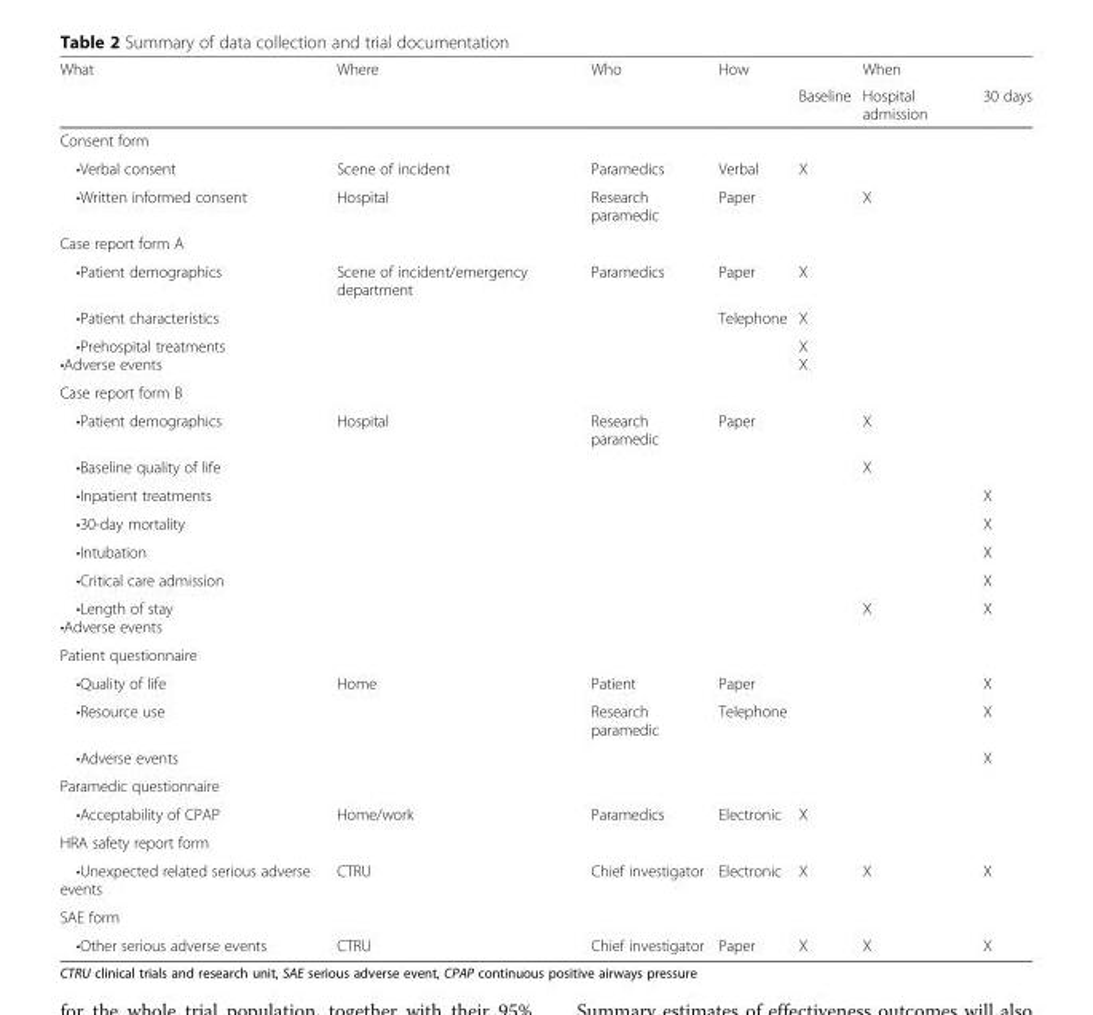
<table><thead><tr><td rowspan="2">What</td><td rowspan="2">Where</td><td rowspan="2">Who</td><td rowspan="2">How</td><td rowspan="2">Baseline</td><td rowspan="2">When Hospital admission</td><td rowspan="2">30 days</td></tr><tr></tr></thead><tbody><tr><td colspan="7">Consent form</td></tr><tr><td>•Verbal consent</td><td>Scene of incident</td><td>Paramedics</td><td>Verbal</td><td>X</td><td></td><td></td></tr><tr><td>•Written informed consent</td><td>Hospital</td><td>Research paramedic</td><td>Paper</td><td></td><td>X</td><td></td></tr><tr><td colspan="7">Case report form A</td></tr><tr><td>•Patient demographics</td><td>Scene of incident/emergency department</td><td>Paramedics</td><td>Paper</td><td>X</td><td></td><td></td></tr><tr><td>•Patient characteristics</td><td></td><td></td><td>Telephone</td><td>X</td><td></td><td></td></tr><tr><td>•Prehospital treatments •Adverse events</td><td></td><td></td><td></td><td>X X</td><td></td><td></td></tr><tr><td colspan="7">Case report form B</td></tr><tr><td>•Patient demographics</td><td>Hospital</td><td>Research paramedic</td><td>Paper</td><td></td><td>X</td><td></td></tr><tr><td>•Baseline quality of life</td><td></td><td></td><td></td><td></td><td>X</td><td></td></tr><tr><td>•Inpatient treatments</td><td></td><td></td><td></td><td></td><td></td><td>X</td></tr><tr><td>•30-day mortality</td><td></td><td></td><td></td><td></td><td></td><td>X</td></tr><tr><td>•Intubation</td><td></td><td></td><td></td><td></td><td></td><td>X</td></tr><tr><td>•Critical care admission</td><td></td><td></td><td></td><td></td><td></td><td>X</td></tr><tr><td>•Length of stay •Adverse events</td><td></td><td></td><td></td><td></td><td>X</td><td>X</td></tr><tr><td colspan="7">Patient questionnaire</td></tr><tr><td>•Quality of life</td><td>Home</td><td>Patient</td><td>Paper</td><td></td><td></td><td>X</td></tr><tr><td>•Resource use</td><td></td><td>Research paramedic</td><td>Telephone</td><td></td><td></td><td>X</td></tr><tr><td>•Adverse events</td><td></td><td></td><td></td><td></td><td></td><td>X</td></tr><tr><td colspan="7">Paramedic questionnaire</td></tr><tr><td>•Acceptability of CPAP</td><td>Home/work</td><td>Paramedics</td><td>Electronic</td><td>X</td><td></td><td></td></tr><tr><td colspan="7">HRA safety report form</td></tr><tr><td>•Unexpected related serious adverse events</td><td>CTRU</td><td>Chief investigator</td><td>Electronic</td><td>X</td><td>X</td><td>X</td></tr><tr><td colspan="7">SAE form</td></tr><tr><td>•Other serious adverse events</td><td>CTRU</td><td>Chief investigator</td><td>Paper</td><td>X</td><td>X</td><td>X</td></tr></tbody></table>